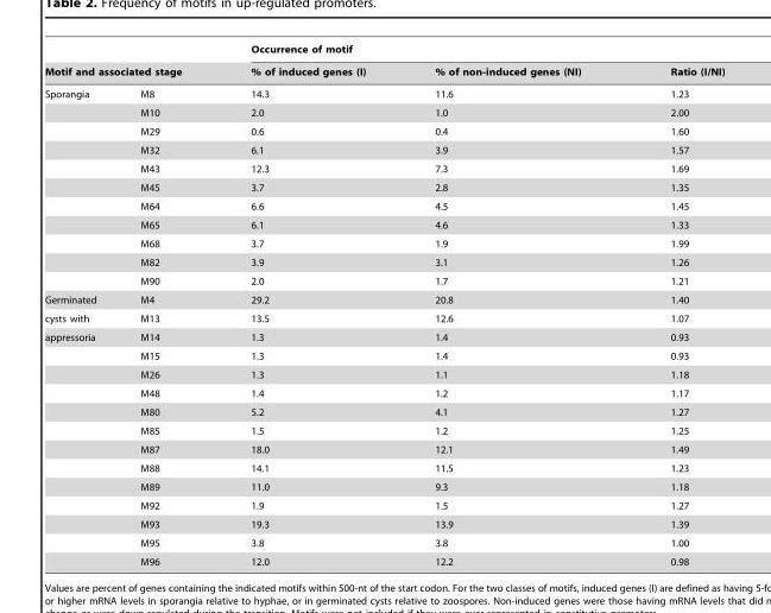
<table><thead><tr><td></td><td></td><td colspan="3">Occurrence of motif</td></tr><tr><td colspan="2">Motif and associated stage</td><td>% of induced genes (I)</td><td>% of non-induced genes (NI)</td><td>Ratio (I/NI)</td></tr></thead><tbody><tr><td rowspan="11">Sporangia</td><td>M8</td><td>14.3</td><td>11.6</td><td>1.23</td></tr><tr><td>M10</td><td>2.0</td><td>1.0</td><td>2.00</td></tr><tr><td>M29</td><td>0.6</td><td>0.4</td><td>1.60</td></tr><tr><td>M32</td><td>6.1</td><td>3.9</td><td>1.57</td></tr><tr><td>M43</td><td>12.3</td><td>7.3</td><td>1.69</td></tr><tr><td>M45</td><td>3.7</td><td>2.8</td><td>1.35</td></tr><tr><td>M64</td><td>6.6</td><td>4.5</td><td>1.45</td></tr><tr><td>M65</td><td>6.1</td><td>4.6</td><td>1.33</td></tr><tr><td>M68</td><td>3.7</td><td>1.9</td><td>1.99</td></tr><tr><td>M82</td><td>3.9</td><td>3.1</td><td>1.26</td></tr><tr><td>M90</td><td>2.0</td><td>1.7</td><td>1.21</td></tr><tr><td>Germinated</td><td>M4</td><td>29.2</td><td>20.8</td><td>1.40</td></tr><tr><td>cysts with</td><td>M13</td><td>13.5</td><td>12.6</td><td>1.07</td></tr><tr><td rowspan="13">appressoria</td><td>M14</td><td>1.3</td><td>1.4</td><td>0.93</td></tr><tr><td>M15</td><td>1.3</td><td>1.4</td><td>0.93</td></tr><tr><td>M26</td><td>1.3</td><td>1.1</td><td>1.18</td></tr><tr><td>M48</td><td>1.4</td><td>1.2</td><td>1.17</td></tr><tr><td>M80</td><td>5.2</td><td>4.1</td><td>1.27</td></tr><tr><td>M85</td><td>1.5</td><td>1.2</td><td>1.25</td></tr><tr><td>M87</td><td>18.0</td><td>12.1</td><td>1.49</td></tr><tr><td>M88</td><td>14.1</td><td>11.5</td><td>1.23</td></tr><tr><td>M89</td><td>11.0</td><td>9.3</td><td>1.18</td></tr><tr><td>M92</td><td>1.9</td><td>1.5</td><td>1.27</td></tr><tr><td>M93</td><td>19.3</td><td>13.9</td><td>1.39</td></tr><tr><td>M95</td><td>3.8</td><td>3.8</td><td>1.00</td></tr><tr><td>M96</td><td>12.0</td><td>12.2</td><td>0.98</td></tr></tbody></table>